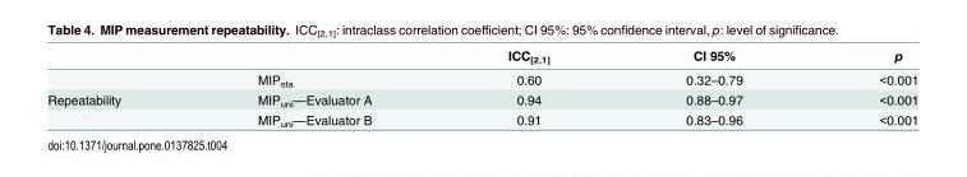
<table><thead><tr><td></td><td></td><td>ICC<sub>[2,1]</sub></td><td>CI 95%</td><td>p</td></tr></thead><tbody><tr><td></td><td>MIP<sub>sta</sub></td><td>0.60</td><td>0.32–0.79</td><td>&lt;0.001</td></tr><tr><td rowspan="2">Repeatability</td><td>MIP<sub>uni</sub>—Evaluator A</td><td>0.94</td><td>0.88–0.97</td><td>&lt;0.001</td></tr><tr><td>MIP<sub>uni</sub>—Evaluator B</td><td>0.91</td><td>0.83–0.96</td><td>&lt;0.001</td></tr></tbody></table>